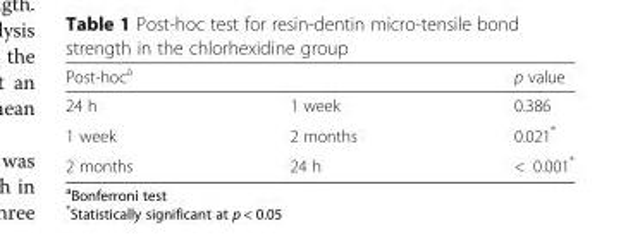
<table><thead><tr><td colspan="2">Post-hoc<sup>a</sup></td><td rowspan="2">p value 0.386</td></tr><tr><td>24 h</td><td>1 week</td></tr></thead><tbody><tr><td>1 week</td><td>2 months</td><td>0.021*</td></tr><tr><td>2 months</td><td>24 h</td><td>&lt; 0.001*</td></tr></tbody></table>